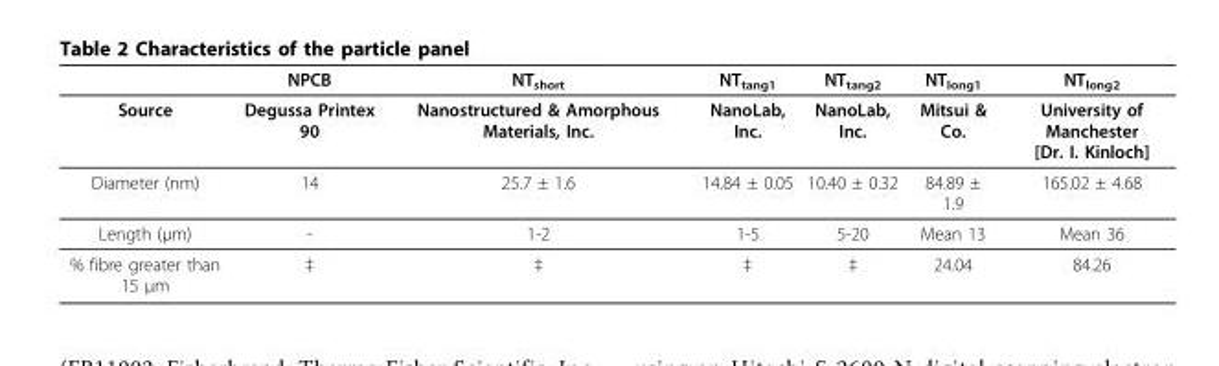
<table><thead><tr><td></td><td>NPCB</td><td>NT<sub>short</sub></td><td>NT<sub>tang1</sub></td><td>NT<sub>tang2</sub></td><td>NT<sub>long1</sub></td><td>NT<sub>long2</sub></td></tr></thead><tbody><tr><td>Source</td><td>Degussa Printex 90</td><td>Nanostructured &amp; Amorphous Materials, Inc.</td><td>NanoLab, Inc.</td><td>NanoLab, Inc.</td><td>Mitsui &amp; Co.</td><td>University of Manchester [Dr. I. Kinloch]</td></tr><tr><td>Diameter (nm)</td><td>14</td><td>25.7 ± 1.6</td><td>14.84 ± 0.05</td><td>10.40 ± 0.32</td><td>84.89 ± 1.9</td><td>165.02 ± 4.68</td></tr><tr><td>Length (μm)</td><td>-</td><td>1-2</td><td>1-5</td><td>5-20</td><td>Mean 13</td><td>Mean 36</td></tr><tr><td>% fibre greater than 15 μm</td><td>‡</td><td>‡</td><td>‡</td><td>‡</td><td>24.04</td><td>84.26</td></tr></tbody></table>